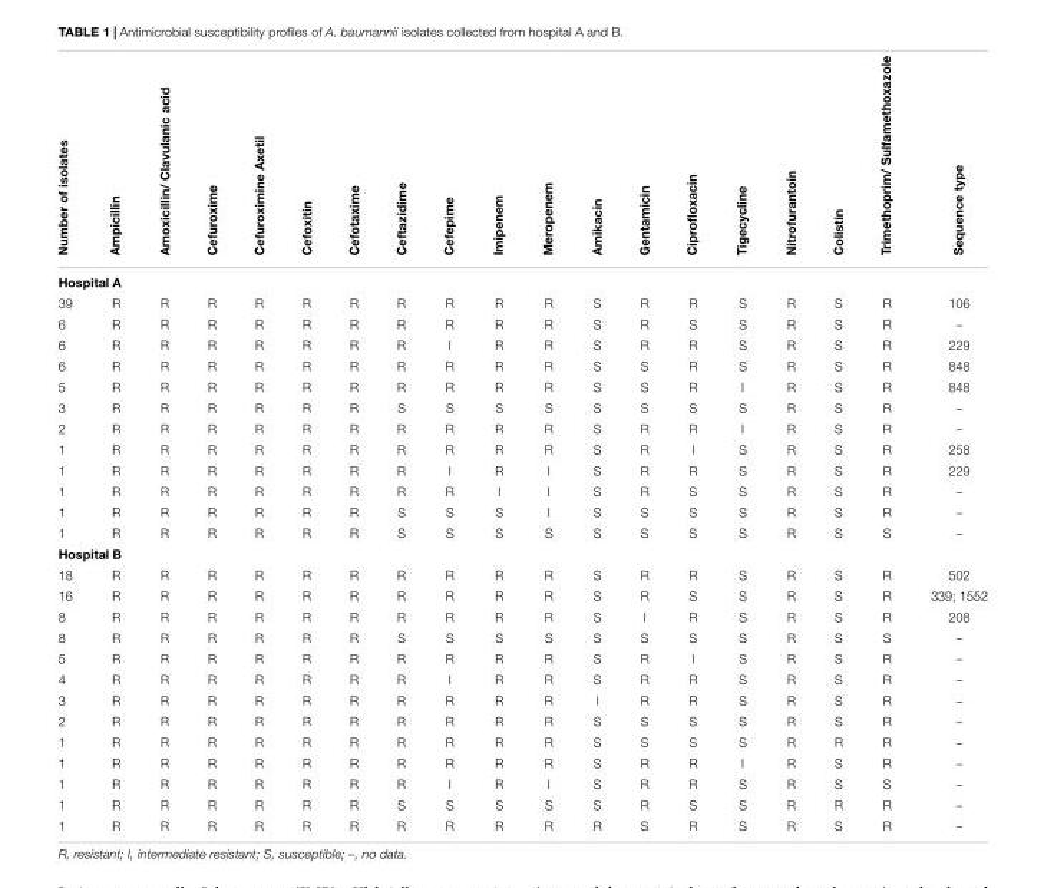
<table><thead><tr><td>Number of isolates</td><td>Ampicillin</td><td>Amoxicillin/ Clavulanic acid</td><td>Cefuroxime</td><td>Cefuroximine Axetil</td><td>Cefoxitin</td><td>Cefotaxime</td><td>Ceftazidime</td><td>Cefepime</td><td>Imipenem</td><td>Meropenem</td><td>Amikacin</td><td>Gentamicin</td><td>Ciprofloxacin</td><td>Tigecycline</td><td>Nitrofurantoin</td><td>Colistin</td><td>Trimethoprim/ Sulfamethoxazole</td><td>Sequence type</td></tr></thead><tbody><tr><td colspan="19">Hospital A</td></tr><tr><td>39</td><td>R</td><td>R</td><td>R</td><td>R</td><td>R</td><td>R</td><td>R</td><td>R</td><td>R</td><td>R</td><td>S</td><td>R</td><td>R</td><td>S</td><td>R</td><td>S</td><td>R</td><td>106</td></tr><tr><td>6</td><td>R</td><td>R</td><td>R</td><td>R</td><td>R</td><td>R</td><td>R</td><td>R</td><td>R</td><td>R</td><td>S</td><td>R</td><td>S</td><td>S</td><td>R</td><td>S</td><td>R</td><td>–</td></tr><tr><td>6</td><td>R</td><td>R</td><td>R</td><td>R</td><td>R</td><td>R</td><td>R</td><td>I</td><td>R</td><td>R</td><td>S</td><td>R</td><td>R</td><td>S</td><td>R</td><td>S</td><td>R</td><td>229</td></tr><tr><td>6</td><td>R</td><td>R</td><td>R</td><td>R</td><td>R</td><td>R</td><td>R</td><td>R</td><td>R</td><td>R</td><td>S</td><td>S</td><td>R</td><td>S</td><td>R</td><td>S</td><td>R</td><td>848</td></tr><tr><td>5</td><td>R</td><td>R</td><td>R</td><td>R</td><td>R</td><td>R</td><td>R</td><td>R</td><td>R</td><td>R</td><td>S</td><td>S</td><td>R</td><td>I</td><td>R</td><td>S</td><td>R</td><td>848</td></tr><tr><td>3</td><td>R</td><td>R</td><td>R</td><td>R</td><td>R</td><td>R</td><td>S</td><td>S</td><td>S</td><td>S</td><td>S</td><td>S</td><td>S</td><td>S</td><td>R</td><td>S</td><td>R</td><td>–</td></tr><tr><td>2</td><td>R</td><td>R</td><td>R</td><td>R</td><td>R</td><td>R</td><td>R</td><td>R</td><td>R</td><td>R</td><td>S</td><td>R</td><td>R</td><td>I</td><td>R</td><td>S</td><td>R</td><td>–</td></tr><tr><td>1</td><td>R</td><td>R</td><td>R</td><td>R</td><td>R</td><td>R</td><td>R</td><td>R</td><td>R</td><td>R</td><td>S</td><td>R</td><td>I</td><td>S</td><td>R</td><td>S</td><td>R</td><td>258</td></tr><tr><td>1</td><td>R</td><td>R</td><td>R</td><td>R</td><td>R</td><td>R</td><td>R</td><td>I</td><td>R</td><td>I</td><td>S</td><td>R</td><td>R</td><td>S</td><td>R</td><td>S</td><td>R</td><td>229</td></tr><tr><td>1</td><td>R</td><td>R</td><td>R</td><td>R</td><td>R</td><td>R</td><td>R</td><td>R</td><td>I</td><td>I</td><td>S</td><td>R</td><td>S</td><td>S</td><td>R</td><td>S</td><td>R</td><td>–</td></tr><tr><td>1</td><td>R</td><td>R</td><td>R</td><td>R</td><td>R</td><td>R</td><td>S</td><td>S</td><td>S</td><td>I</td><td>S</td><td>S</td><td>S</td><td>S</td><td>R</td><td>S</td><td>R</td><td>–</td></tr><tr><td>1</td><td>R</td><td>R</td><td>R</td><td>R</td><td>R</td><td>R</td><td>S</td><td>S</td><td>S</td><td>S</td><td>S</td><td>S</td><td>S</td><td>S</td><td>R</td><td>S</td><td>S</td><td>–</td></tr><tr><td colspan="19">Hospital B</td></tr><tr><td>18</td><td>R</td><td>R</td><td>R</td><td>R</td><td>R</td><td>R</td><td>R</td><td>R</td><td>R</td><td>R</td><td>S</td><td>R</td><td>R</td><td>S</td><td>R</td><td>S</td><td>R</td><td>502</td></tr><tr><td>16</td><td>R</td><td>R</td><td>R</td><td>R</td><td>R</td><td>R</td><td>R</td><td>R</td><td>R</td><td>R</td><td>S</td><td>R</td><td>S</td><td>S</td><td>R</td><td>S</td><td>R</td><td>339; 1552</td></tr><tr><td>8</td><td>R</td><td>R</td><td>R</td><td>R</td><td>R</td><td>R</td><td>R</td><td>R</td><td>R</td><td>R</td><td>S</td><td>I</td><td>R</td><td>S</td><td>R</td><td>S</td><td>R</td><td>208</td></tr><tr><td>8</td><td>R</td><td>R</td><td>R</td><td>R</td><td>R</td><td>R</td><td>S</td><td>S</td><td>S</td><td>S</td><td>S</td><td>S</td><td>S</td><td>S</td><td>R</td><td>S</td><td>S</td><td>–</td></tr><tr><td>5</td><td>R</td><td>R</td><td>R</td><td>R</td><td>R</td><td>R</td><td>R</td><td>R</td><td>R</td><td>R</td><td>S</td><td>R</td><td>I</td><td>S</td><td>R</td><td>S</td><td>R</td><td>–</td></tr><tr><td>4</td><td>R</td><td>R</td><td>R</td><td>R</td><td>R</td><td>R</td><td>R</td><td>I</td><td>R</td><td>R</td><td>S</td><td>R</td><td>R</td><td>S</td><td>R</td><td>S</td><td>R</td><td>–</td></tr><tr><td>3</td><td>R</td><td>R</td><td>R</td><td>R</td><td>R</td><td>R</td><td>R</td><td>R</td><td>R</td><td>R</td><td>I</td><td>R</td><td>R</td><td>S</td><td>R</td><td>S</td><td>R</td><td>–</td></tr><tr><td>2</td><td>R</td><td>R</td><td>R</td><td>R</td><td>R</td><td>R</td><td>R</td><td>R</td><td>R</td><td>R</td><td>S</td><td>S</td><td>S</td><td>S</td><td>R</td><td>S</td><td>R</td><td>–</td></tr><tr><td>1</td><td>R</td><td>R</td><td>R</td><td>R</td><td>R</td><td>R</td><td>R</td><td>R</td><td>R</td><td>R</td><td>S</td><td>S</td><td>S</td><td>S</td><td>R</td><td>R</td><td>R</td><td>–</td></tr><tr><td>1</td><td>R</td><td>R</td><td>R</td><td>R</td><td>R</td><td>R</td><td>R</td><td>R</td><td>R</td><td>R</td><td>S</td><td>R</td><td>R</td><td>I</td><td>R</td><td>S</td><td>R</td><td>–</td></tr><tr><td>1</td><td>R</td><td>R</td><td>R</td><td>R</td><td>R</td><td>R</td><td>R</td><td>I</td><td>R</td><td>I</td><td>S</td><td>R</td><td>R</td><td>S</td><td>R</td><td>S</td><td>S</td><td>–</td></tr><tr><td>1</td><td>R</td><td>R</td><td>R</td><td>R</td><td>R</td><td>R</td><td>S</td><td>S</td><td>S</td><td>S</td><td>S</td><td>R</td><td>S</td><td>S</td><td>R</td><td>R</td><td>R</td><td>–</td></tr><tr><td>1</td><td>R</td><td>R</td><td>R</td><td>R</td><td>R</td><td>R</td><td>R</td><td>R</td><td>R</td><td>R</td><td>R</td><td>S</td><td>R</td><td>S</td><td>R</td><td>S</td><td>R</td><td>–</td></tr></tbody></table>